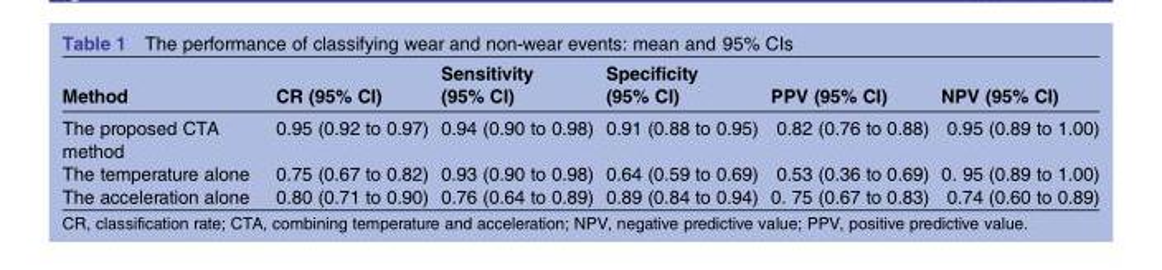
<table><thead><tr><td>Method</td><td>CR (95% CI)</td><td>Sensitivity (95% CI)</td><td>Specificity (95% CI)</td><td>PPV (95% CI)</td><td>NPV (95% CI)</td></tr></thead><tbody><tr><td>The proposed CTA method</td><td>0.95 (0.92 to 0.97)</td><td>0.94 (0.90 to 0.98)</td><td>0.91 (0.88 to 0.95)</td><td>0.82 (0.76 to 0.88)</td><td>0.95 (0.89 to 1.00)</td></tr><tr><td>The temperature alone</td><td>0.75 (0.67 to 0.82)</td><td>0.93 (0.90 to 0.98)</td><td>0.64 (0.59 to 0.69)</td><td>0.53 (0.36 to 0.69)</td><td>0. 95 (0.89 to 1.00)</td></tr><tr><td>The acceleration alone</td><td>0.80 (0.71 to 0.90)</td><td>0.76 (0.64 to 0.89)</td><td>0.89 (0.84 to 0.94)</td><td>0. 75 (0.67 to 0.83)</td><td>0.74 (0.60 to 0.89)</td></tr></tbody></table>